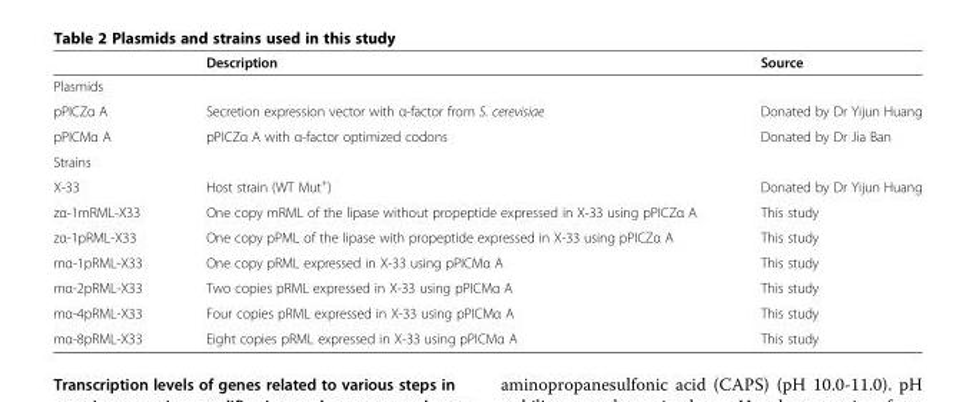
<table><thead><tr><td></td><td>Description</td><td>Source</td></tr></thead><tbody><tr><td colspan="3">Plasmids</td></tr><tr><td>pPICZα A</td><td>Secretion expression vector with α-factor from S. cerevisiae</td><td>Donated by Dr Yijun Huang</td></tr><tr><td>pPICMα A</td><td>pPICZα A with α-factor optimized codons</td><td>Donated by Dr Jia Ban</td></tr><tr><td colspan="3">Strains</td></tr><tr><td>X-33</td><td>Host strain (WT Mut<sup>+</sup>)</td><td>Donated by Dr Yijun Huang</td></tr><tr><td>zα-1mRML-X33</td><td>One copy mRML of the lipase without propeptide expressed in X-33 using pPICZα A</td><td>This study</td></tr><tr><td>zα-1pRML-X33</td><td>One copy pPML of the lipase with propeptide expressed in X-33 using pPICZα A</td><td>This study</td></tr><tr><td>mα-1pRML-X33</td><td>One copy pRML expressed in X-33 using pPICMα A</td><td>This study</td></tr><tr><td>mα-2pRML-X33</td><td>Two copies pRML expressed in X-33 using pPICMα A</td><td>This study</td></tr><tr><td>mα-4pRML-X33</td><td>Four copies pRML expressed in X-33 using pPICMα A</td><td>This study</td></tr><tr><td>mα-8pRML-X33</td><td>Eight copies pRML expressed in X-33 using pPICMα A</td><td>This study</td></tr></tbody></table>